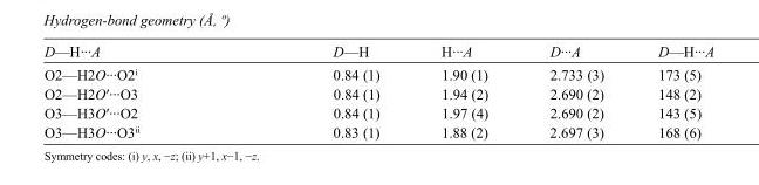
<table><tbody><tr><td>D—H···A</td><td>D—H</td><td>H···A</td><td>D···A</td><td>D—H···A</td></tr><tr><td>O2—H2O···O2<sup>i</sup></td><td>0.84 (1)</td><td>1.90 (1)</td><td>2.733 (3)</td><td>173 (5)</td></tr><tr><td>O2—H2O′···O3</td><td>0.84 (1)</td><td>1.94 (2)</td><td>2.690 (2)</td><td>148 (2)</td></tr><tr><td>O3—H3O′···O2</td><td>0.84 (1)</td><td>1.97 (4)</td><td>2.690 (2)</td><td>143 (5)</td></tr><tr><td>O3—H3O···O3<sup>ii</sup></td><td>0.83 (1)</td><td>1.88 (2)</td><td>2.697 (3)</td><td>168 (6)</td></tr></tbody></table>